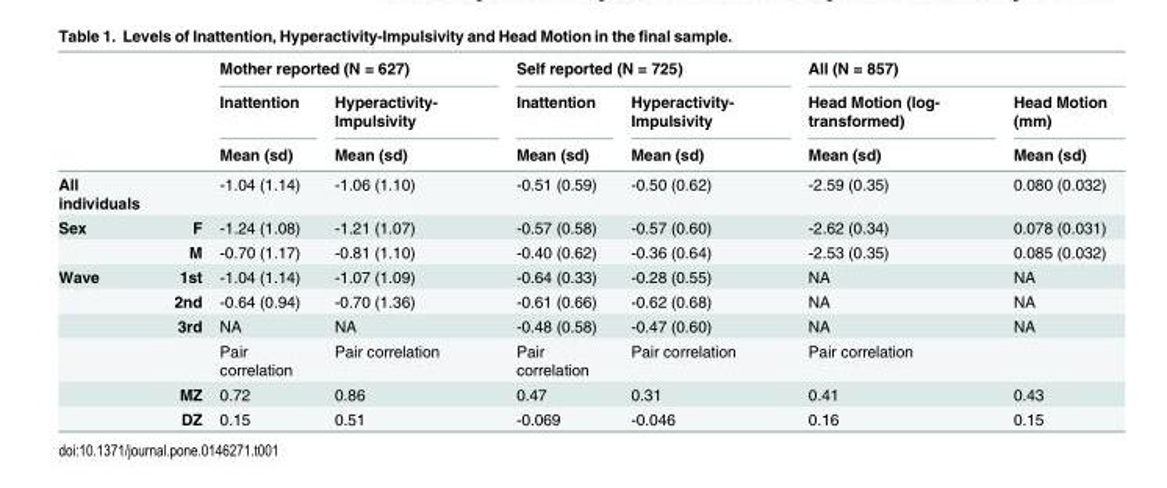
<table><thead><tr><td rowspan="3"></td><td rowspan="3"></td><td colspan="2">Mother reported (N = 627)</td><td colspan="2">Self reported (N = 725)</td><td colspan="2">All (N = 857)</td></tr><tr><td rowspan="2">Inattention Mean (sd)</td><td rowspan="2">Hyperactivity- Impulsivity Mean (sd)</td><td rowspan="2">Inattention Mean (sd)</td><td rowspan="2">Hyperactivity- Impulsivity Mean (sd)</td><td rowspan="2">Head Motion (log- transformed) Mean (sd)</td><td rowspan="2">Head Motion (mm) Mean (sd)</td></tr><tr></tr></thead><tbody><tr><td>All individuals</td><td></td><td>-1.04 (1.14)</td><td>-1.06 (1.10)</td><td>-0.51 (0.59)</td><td>-0.50 (0.62)</td><td>-2.59 (0.35)</td><td>0.080 (0.032)</td></tr><tr><td rowspan="2">Sex</td><td>F</td><td>-1.24 (1.08)</td><td>-1.21 (1.07)</td><td>-0.57 (0.58)</td><td>-0.57 (0.60)</td><td>-2.62 (0.34)</td><td>0.078 (0.031)</td></tr><tr><td>M</td><td>-0.70 (1.17)</td><td>-0.81 (1.10)</td><td>-0.40 (0.62)</td><td>-0.36 (0.64)</td><td>-2.53 (0.35)</td><td>0.085 (0.032)</td></tr><tr><td rowspan="6">Wave</td><td>1st</td><td>-1.04 (1.14)</td><td>-1.07 (1.09)</td><td>-0.64 (0.33)</td><td>-0.28 (0.55)</td><td>NA</td><td>NA</td></tr><tr><td>2nd</td><td>-0.64 (0.94)</td><td>-0.70 (1.36)</td><td>-0.61 (0.66)</td><td>-0.62 (0.68)</td><td>NA</td><td>NA</td></tr><tr><td>3rd</td><td>NA</td><td>NA</td><td>-0.48 (0.58)</td><td>-0.47 (0.60)</td><td>NA</td><td>NA</td></tr><tr><td></td><td>Pair correlation</td><td>Pair correlation</td><td>Pair correlation</td><td>Pair correlation</td><td>Pair correlation</td><td></td></tr><tr><td>MZ</td><td>0.72</td><td>0.86</td><td>0.47</td><td>0.31</td><td>0.41</td><td>0.43</td></tr><tr><td>DZ</td><td>0.15</td><td>0.51</td><td>-0.069</td><td>-0.046</td><td>0.16</td><td>0.15</td></tr></tbody></table>